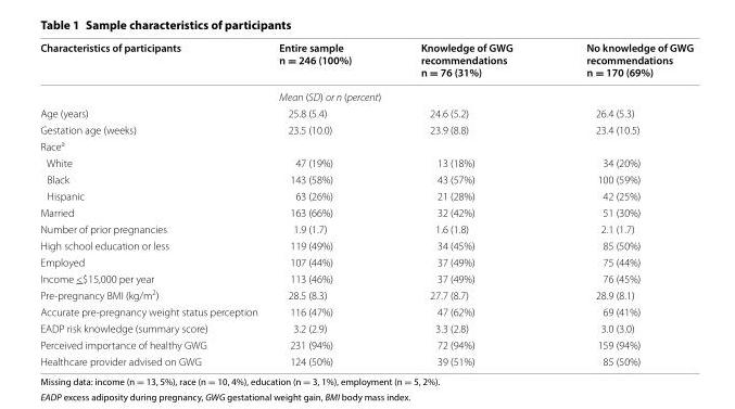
<table><thead><tr><td>Characteristics of participants</td><td>Entire sample n = 246 (100%)</td><td>Knowledge of GWG recommendations n = 76 (31%)</td><td>No knowledge of GWG recommendations n = 170 (69%)</td></tr></thead><tbody><tr><td></td><td colspan="3">Mean (SD) or n (percent)</td></tr><tr><td>Age (years)</td><td>25.8 (5.4)</td><td>24.6 (5.2)</td><td>26.4 (5.3)</td></tr><tr><td>Gestation age (weeks)</td><td>23.5 (10.0)</td><td>23.9 (8.8)</td><td>23.4 (10.5)</td></tr><tr><td colspan="4">Race<sup>a</sup></td></tr><tr><td>White</td><td>47 (19%)</td><td>13 (18%)</td><td>34 (20%)</td></tr><tr><td>Black</td><td>143 (58%)</td><td>43 (57%)</td><td>100 (59%)</td></tr><tr><td>Hispanic</td><td>63 (26%)</td><td>21 (28%)</td><td>42 (25%)</td></tr><tr><td>Married</td><td>163 (66%)</td><td>32 (42%)</td><td>51 (30%)</td></tr><tr><td>Number of prior pregnancies</td><td>1.9 (1.7)</td><td>1.6 (1.8)</td><td>2.1 (1.7)</td></tr><tr><td>High school education or less</td><td>119 (49%)</td><td>34 (45%)</td><td>85 (50%)</td></tr><tr><td>Employed</td><td>107 (44%)</td><td>37 (49%)</td><td>75 (44%)</td></tr><tr><td>Income &lt;$15,000 per year</td><td>113 (46%)</td><td>37 (49%)</td><td>76 (45%)</td></tr><tr><td>Pre-pregnancy BMI (kg/m<sup>2</sup>)</td><td>28.5 (8.3)</td><td>27.7 (8.7)</td><td>28.9 (8.1)</td></tr><tr><td>Accurate pre-pregnancy weight status perception</td><td>116 (47%)</td><td>47 (62%)</td><td>69 (41%)</td></tr><tr><td>EADP risk knowledge (summary score)</td><td>3.2 (2.9)</td><td>3.3 (2.8)</td><td>3.0 (3.0)</td></tr><tr><td>Perceived importance of healthy GWG</td><td>231 (94%)</td><td>72 (94%)</td><td>159 (94%)</td></tr><tr><td>Healthcare provider advised on GWG</td><td>124 (50%)</td><td>39 (51%)</td><td>85 (50%)</td></tr></tbody></table>